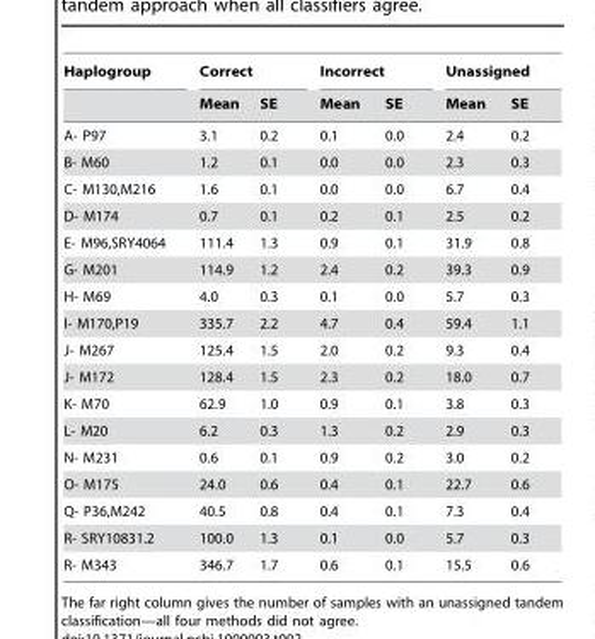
<table><thead><tr><td rowspan="2">Haplogroup</td><td colspan="2">Correct</td><td colspan="2">Incorrect</td><td colspan="2">Unassigned</td></tr><tr><td>Mean</td><td>SE</td><td>Mean</td><td>SE</td><td>Mean</td><td>SE</td></tr></thead><tbody><tr><td>A- P97</td><td>3.1</td><td>0.2</td><td>0.1</td><td>0.0</td><td>2.4</td><td>0.2</td></tr><tr><td>B- M60</td><td>1.2</td><td>0.1</td><td>0.0</td><td>0.0</td><td>2.3</td><td>0.3</td></tr><tr><td>C- M130,M216</td><td>1.6</td><td>0.1</td><td>0.0</td><td>0.0</td><td>6.7</td><td>0.4</td></tr><tr><td>D- M174</td><td>0.7</td><td>0.1</td><td>0.2</td><td>0.1</td><td>2.5</td><td>0.2</td></tr><tr><td>E- M96,SRY4064</td><td>111.4</td><td>1.3</td><td>0.9</td><td>0.1</td><td>31.9</td><td>0.8</td></tr><tr><td>G- M201</td><td>114.9</td><td>1.2</td><td>2.4</td><td>0.2</td><td>39.3</td><td>0.9</td></tr><tr><td>H- M69</td><td>4.0</td><td>0.3</td><td>0.1</td><td>0.0</td><td>5.7</td><td>0.3</td></tr><tr><td>I- M170,P19</td><td>335.7</td><td>2.2</td><td>4.7</td><td>0.4</td><td>59.4</td><td>1.1</td></tr><tr><td>J- M267</td><td>125.4</td><td>1.5</td><td>2.0</td><td>0.2</td><td>9.3</td><td>0.4</td></tr><tr><td>J- M172</td><td>128.4</td><td>1.5</td><td>2.3</td><td>0.2</td><td>18.0</td><td>0.7</td></tr><tr><td>K- M70</td><td>62.9</td><td>1.0</td><td>0.9</td><td>0.1</td><td>3.8</td><td>0.3</td></tr><tr><td>L- M20</td><td>6.2</td><td>0.3</td><td>1.3</td><td>0.2</td><td>2.9</td><td>0.3</td></tr><tr><td>N- M231</td><td>0.6</td><td>0.1</td><td>0.9</td><td>0.2</td><td>3.0</td><td>0.2</td></tr><tr><td>O- M175</td><td>24.0</td><td>0.6</td><td>0.4</td><td>0.1</td><td>22.7</td><td>0.6</td></tr><tr><td>Q- P36,M242</td><td>40.5</td><td>0.8</td><td>0.4</td><td>0.1</td><td>7.3</td><td>0.4</td></tr><tr><td>R- SRY10831.2</td><td>100.0</td><td>1.3</td><td>0.1</td><td>0.0</td><td>5.7</td><td>0.3</td></tr><tr><td>R- M343</td><td>346.7</td><td>1.7</td><td>0.6</td><td>0.1</td><td>15.5</td><td>0.6</td></tr></tbody></table>